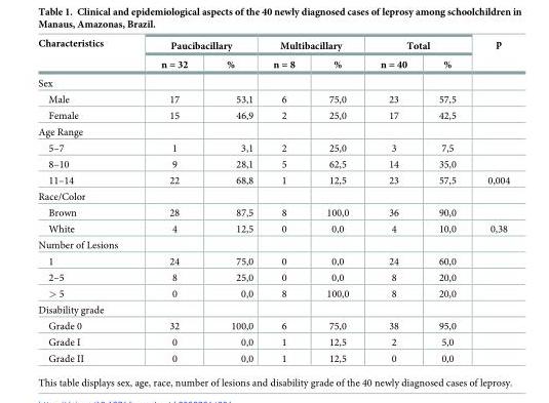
<table><thead><tr><td rowspan="2">Characteristics</td><td colspan="2">Paucibacillary</td><td colspan="2">Multibacillary</td><td colspan="2">Total</td><td rowspan="2">p</td></tr><tr><td>n = 32</td><td>%</td><td>n = 8</td><td>%</td><td>n = 40</td><td>%</td></tr></thead><tbody><tr><td colspan="8">Sex</td></tr><tr><td>Male</td><td>17</td><td>53,1</td><td>6</td><td>75,0</td><td>23</td><td>57,5</td><td></td></tr><tr><td>Female</td><td>15</td><td>46,9</td><td>2</td><td>25,0</td><td>17</td><td>42,5</td><td></td></tr><tr><td colspan="8">Age Range</td></tr><tr><td>5–7</td><td>1</td><td>3,1</td><td>2</td><td>25,0</td><td>3</td><td>7,5</td><td></td></tr><tr><td>8–10</td><td>9</td><td>28,1</td><td>5</td><td>62,5</td><td>14</td><td>35,0</td><td></td></tr><tr><td>11–14</td><td>22</td><td>68,8</td><td>1</td><td>12,5</td><td>23</td><td>57,5</td><td>0,004</td></tr><tr><td colspan="8">Race/Color</td></tr><tr><td>Brown</td><td>28</td><td>87,5</td><td>8</td><td>100,0</td><td>36</td><td>90,0</td><td></td></tr><tr><td>White</td><td>4</td><td>12,5</td><td>0</td><td>0,0</td><td>4</td><td>10,0</td><td>0,38</td></tr><tr><td colspan="8">Number of Lesions</td></tr><tr><td>1</td><td>24</td><td>75,0</td><td>0</td><td>0,0</td><td>24</td><td>60,0</td><td></td></tr><tr><td>2–5</td><td>8</td><td>25,0</td><td>0</td><td>0,0</td><td>8</td><td>20,0</td><td></td></tr><tr><td>&gt; 5</td><td>0</td><td>0,0</td><td>8</td><td>100,0</td><td>8</td><td>20,0</td><td></td></tr><tr><td colspan="8">Disability grade</td></tr><tr><td>Grade 0</td><td>32</td><td>100,0</td><td>6</td><td>75,0</td><td>38</td><td>95,0</td><td></td></tr><tr><td>Grade I</td><td>0</td><td>0,0</td><td>1</td><td>12,5</td><td>2</td><td>5,0</td><td></td></tr><tr><td>Grade II</td><td>0</td><td>0,0</td><td>1</td><td>12,5</td><td>0</td><td>0,0</td><td></td></tr></tbody></table>